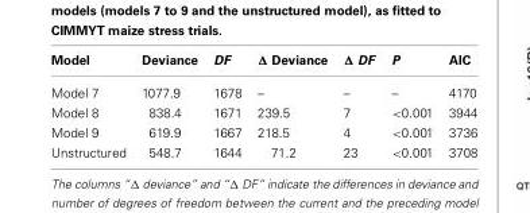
<table><thead><tr><td>Model</td><td>Deviance</td><td>DF</td><td>Δ Deviance</td><td>Δ DF</td><td>P</td><td>AIC</td></tr></thead><tbody><tr><td>Model 7</td><td>1077.9</td><td>1678</td><td>–</td><td>–</td><td>–</td><td>4170</td></tr><tr><td>Model 8</td><td>838.4</td><td>1671</td><td>239.5</td><td>7</td><td>&lt;0.001</td><td>3944</td></tr><tr><td>Model 9</td><td>619.9</td><td>1667</td><td>218.5</td><td>4</td><td>&lt;0.001</td><td>3736</td></tr><tr><td>Unstructured</td><td>548.7</td><td>1644</td><td>71.2</td><td>23</td><td>&lt;0.001</td><td>3708</td></tr></tbody></table>